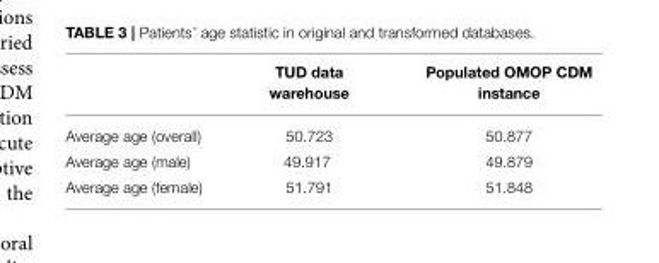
<table><thead><tr><td></td><td>TUD data warehouse</td><td>Populated OMOP CDM instance</td></tr></thead><tbody><tr><td>Average age (overall)</td><td>50.723</td><td>50.877</td></tr><tr><td>Average age (male)</td><td>49.917</td><td>49.879</td></tr><tr><td>Average age (female)</td><td>51.791</td><td>51.848</td></tr></tbody></table>